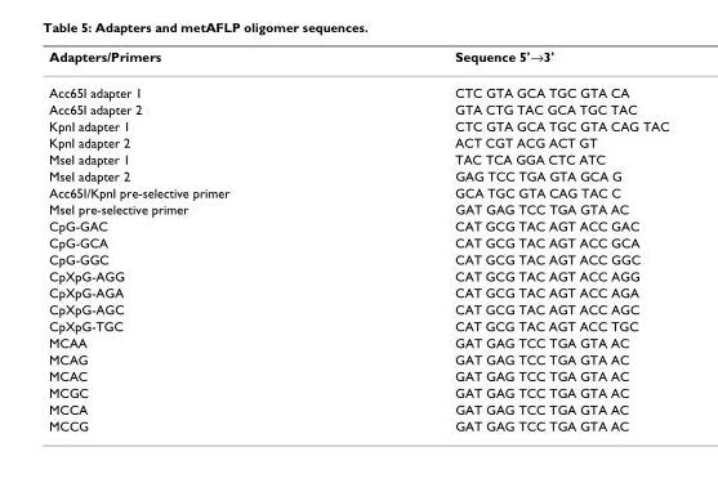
<table><thead><tr><td>Adapters/Primers</td><td>Sequence 5&#x27;→3&#x27;</td></tr></thead><tbody><tr><td>Acc65I adapter 1</td><td>CTC GTA GCA TGC GTA CA</td></tr><tr><td>Acc65I adapter 2</td><td>GTA CTG TAC GCA TGC TAC</td></tr><tr><td>KpnI adapter 1</td><td>CTC GTA GCA TGC GTA CAG TAC</td></tr><tr><td>KpnI adapter 2</td><td>ACT CGT ACG ACT GT</td></tr><tr><td>MseI adapter 1</td><td>TAC TCA GGA CTC ATC</td></tr><tr><td>MseI adapter 2</td><td>GAG TCC TGA GTA GCA G</td></tr><tr><td>Acc65I/KpnI pre-selective primer</td><td>GCA TGC GTA CAG TAC C</td></tr><tr><td>MseI pre-selective primer</td><td>GAT GAG TCC TGA GTA AC</td></tr><tr><td>CpG-GAC</td><td>CAT GCG TAC AGT ACC GAC</td></tr><tr><td>CpG-GCA</td><td>CAT GCG TAC AGT ACC GCA</td></tr><tr><td>CpG-GGC</td><td>CAT GCG TAC AGT ACC GGC</td></tr><tr><td>CpXpG-AGG</td><td>CAT GCG TAC AGT ACC AGG</td></tr><tr><td>CpXpG-AGA</td><td>CAT GCG TAC AGT ACC AGA</td></tr><tr><td>CpXpG-AGC</td><td>CAT GCG TAC AGT ACC AGC</td></tr><tr><td>CpXpG-TGC</td><td>CAT GCG TAC AGT ACC TGC</td></tr><tr><td>MCAA</td><td>GAT GAG TCC TGA GTA AC</td></tr><tr><td>MCAG</td><td>GAT GAG TCC TGA GTA AC</td></tr><tr><td>MCAC</td><td>GAT GAG TCC TGA GTA AC</td></tr><tr><td>MCGC</td><td>GAT GAG TCC TGA GTA AC</td></tr><tr><td>MCCA</td><td>GAT GAG TCC TGA GTA AC</td></tr><tr><td>MCCG</td><td>GAT GAG TCC TGA GTA AC</td></tr></tbody></table>